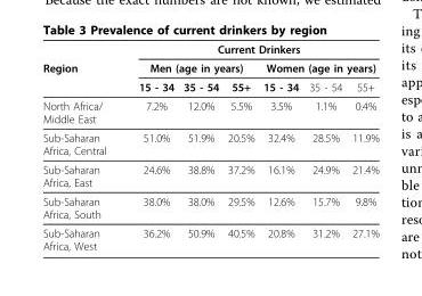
<table><thead><tr><td rowspan="3">Region</td><td colspan="6">Current Drinkers</td></tr><tr><td colspan="3">Men (age in years)</td><td colspan="3">Women (age in years)</td></tr><tr><td>15 - 34</td><td>35 - 54</td><td>55+</td><td>15 - 34</td><td>35 - 54</td><td>55+</td></tr></thead><tbody><tr><td>North Africa/ Middle East</td><td>7.2%</td><td>12.0%</td><td>5.5%</td><td>3.5%</td><td>1.1%</td><td>0.4%</td></tr><tr><td>Sub-Saharan Africa, Central</td><td>51.0%</td><td>51.9%</td><td>20.5%</td><td>32.4%</td><td>28.5%</td><td>11.9%</td></tr><tr><td>Sub-Saharan Africa, East</td><td>24.6%</td><td>38.8%</td><td>37.2%</td><td>16.1%</td><td>24.9%</td><td>21.4%</td></tr><tr><td>Sub-Saharan Africa, South</td><td>38.0%</td><td>38.0%</td><td>29.5%</td><td>12.6%</td><td>15.7%</td><td>9.8%</td></tr><tr><td>Sub-Saharan Africa, West</td><td>36.2%</td><td>50.9%</td><td>40.5%</td><td>20.8%</td><td>31.2%</td><td>27.1%</td></tr></tbody></table>